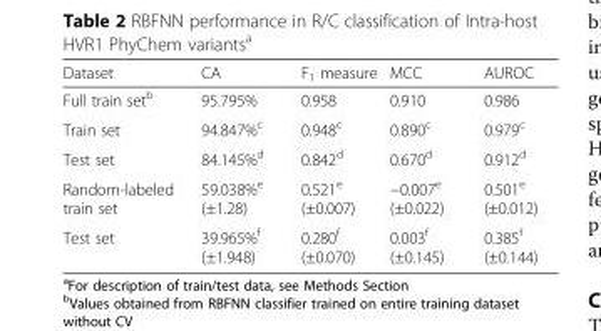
<table><thead><tr><td>Dataset</td><td>CA</td><td>F<sub>1</sub> measure</td><td>MCC</td><td>AUROC</td></tr></thead><tbody><tr><td>Full train set<sup>b</sup></td><td>95.795%</td><td>0.958</td><td>0.910</td><td>0.986</td></tr><tr><td>Train set</td><td>94.847%<sup>c</sup></td><td>0.948<sup>c</sup></td><td>0.890<sup>c</sup></td><td>0.979<sup>c</sup></td></tr><tr><td>Test set</td><td>84.145%<sup>d</sup></td><td>0.842<sup>d</sup></td><td>0.670<sup>d</sup></td><td>0.912<sup>d</sup></td></tr><tr><td>Random-labeled train set</td><td>59.038%<sup>e</sup> (±1.28)</td><td>0.521<sup>e</sup> (±0.007)</td><td>−0.007<sup>e</sup> (±0.022)</td><td>0.501<sup>e</sup> (±0.012)</td></tr><tr><td>Test set</td><td>39.965%<sup>f</sup> (±1.948)</td><td>0.280<sup>f</sup> (±0.070)</td><td>0.003<sup>f</sup> (±0.145)</td><td>0.385<sup>f</sup> (±0.144)</td></tr></tbody></table>